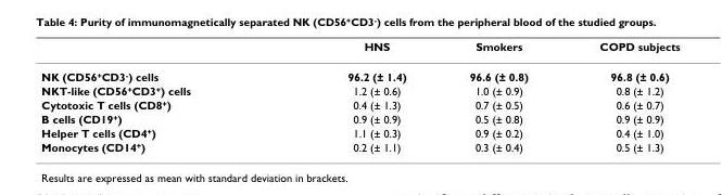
<table><thead><tr><td></td><td>HNS</td><td>Smokers</td><td>COPD subjects</td></tr></thead><tbody><tr><td>NK (CD56<sup>+</sup>CD3<sup>-</sup>) cells</td><td>96.2 (± 1.4)</td><td>96.6 (± 0.8)</td><td>96.8 (± 0.6)</td></tr><tr><td>NKT-like (CD56<sup>+</sup>CD3<sup>+</sup>) cells</td><td>1.2 (± 0.6)</td><td>1.0 (± 0.9)</td><td>0.8 (± 1.2)</td></tr><tr><td>Cytotoxic T cells (CD8<sup>+</sup>)</td><td>0.4 (± 1.3)</td><td>0.7 (± 0.5)</td><td>0.6 (± 0.7)</td></tr><tr><td>B cells (CD19<sup>+</sup>)</td><td>0.9 (± 0.9)</td><td>0.5 (± 0.8)</td><td>0.9 (± 0.9)</td></tr><tr><td>Helper T cells (CD4<sup>+</sup>)</td><td>1.1 (± 0.3)</td><td>0.9 (± 0.2)</td><td>0.4 (± 1.0)</td></tr><tr><td>Monocytes (CD14<sup>+</sup>)</td><td>0.2 (± 1.1)</td><td>0.3 (± 0.4)</td><td>0.5 (± 1.3)</td></tr></tbody></table>